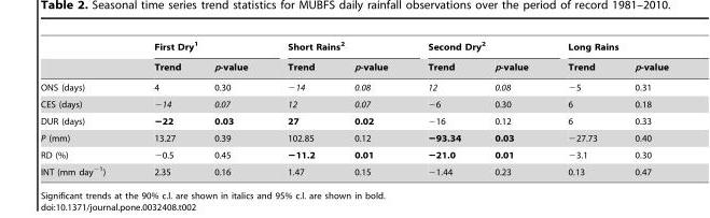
<table><thead><tr><td rowspan="2"></td><td colspan="2">First Dry<sup>1</sup></td><td colspan="2">Short Rains<sup>2</sup></td><td colspan="2">Second Dry<sup>2</sup></td><td colspan="2">Long Rains</td></tr><tr><td>Trend</td><td>p-value</td><td>Trend</td><td>p-value</td><td>Trend</td><td>p-value</td><td>Trend</td><td>p-value</td></tr></thead><tbody><tr><td>ONS (days)</td><td>4</td><td>0.30</td><td>−14</td><td>0.08</td><td>12</td><td>0.08</td><td>−5</td><td>0.31</td></tr><tr><td>CES (days)</td><td>−14</td><td>0.07</td><td>12</td><td>0.07</td><td>−6</td><td>0.30</td><td>6</td><td>0.18</td></tr><tr><td>DUR (days)</td><td>−22</td><td>0.03</td><td>27</td><td>0.02</td><td>−16</td><td>0.12</td><td>6</td><td>0.33</td></tr><tr><td>P (mm)</td><td>13.27</td><td>0.39</td><td>102.85</td><td>0.12</td><td>−93.34</td><td>0.03</td><td>−27.73</td><td>0.40</td></tr><tr><td>RD (%)</td><td>−0.5</td><td>0.45</td><td>−11.2</td><td>0.01</td><td>−21.0</td><td>0.01</td><td>−3.1</td><td>0.30</td></tr><tr><td>INT (mm day<sup>−1</sup>)</td><td>2.35</td><td>0.16</td><td>1.47</td><td>0.15</td><td>−1.44</td><td>0.23</td><td>0.13</td><td>0.47</td></tr></tbody></table>